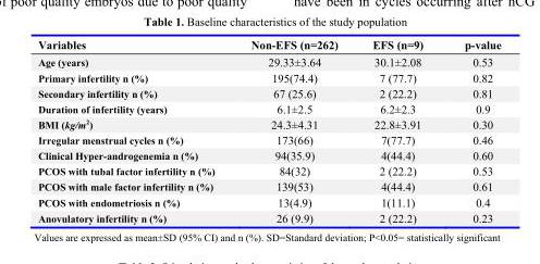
<table><thead><tr><td>Variables</td><td>Non-EFS (n=262)</td><td>EFS (n=9)</td><td>p-value</td></tr></thead><tbody><tr><td>Age (years)</td><td>29.33±3.64</td><td>30.1±2.08</td><td>0.53</td></tr><tr><td>Primary infertility n (%)</td><td>195(74.4)</td><td>7 (77.7)</td><td>0.82</td></tr><tr><td>Secondary infertility n (%)</td><td>67 (25.6)</td><td>2 (22.2)</td><td>0.81</td></tr><tr><td>Duration of infertility (years)</td><td>6.1±2.5</td><td>6.2±2.3</td><td>0.9</td></tr><tr><td>BMI (kg/m<sup>2</sup>)</td><td>24.3±4.31</td><td>22.8±3.91</td><td>0.30</td></tr><tr><td>Irregular menstrual cycles n (%)</td><td>173(66)</td><td>7(77.7)</td><td>0.46</td></tr><tr><td>Clinical Hyper-androgenemia n (%)</td><td>94(35.9)</td><td>4(44.4)</td><td>0.60</td></tr><tr><td>PCOS with tubal factor infertility n (%)</td><td>84(32)</td><td>2 (22.2)</td><td>0.53</td></tr><tr><td>PCOS with male factor infertility n (%)</td><td>139(53)</td><td>4(44.4)</td><td>0.61</td></tr><tr><td>PCOS with endometriosis n (%)</td><td>13(4.9)</td><td>1(11.1)</td><td>0.4</td></tr><tr><td>Anovulatory infertility n (%)</td><td>26 (9.9)</td><td>2 (22.2)</td><td>0.23</td></tr></tbody></table>